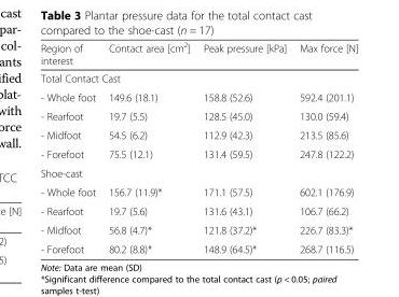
<table><thead><tr><td>Region of interest</td><td>Contact area [cm<sup>2</sup>]</td><td>Peak pressure [kPa]</td><td>Max force [N]</td></tr></thead><tbody><tr><td colspan="4">Total Contact Cast</td></tr><tr><td>- Whole foot</td><td>149.6 (18.1)</td><td>158.8 (52.6)</td><td>592.4 (201.1)</td></tr><tr><td>- Rearfoot</td><td>19.7 (5.5)</td><td>128.5 (45.0)</td><td>130.0 (59.4)</td></tr><tr><td>- Midfoot</td><td>54.5 (6.2)</td><td>112.9 (42.3)</td><td>213.5 (85.6)</td></tr><tr><td>- Forefoot</td><td>75.5 (12.1)</td><td>131.4 (59.5)</td><td>247.8 (122.2)</td></tr><tr><td colspan="4">Shoe-cast</td></tr><tr><td>- Whole foot</td><td>156.7 (11.9)*</td><td>171.1 (57.5)</td><td>602.1 (176.9)</td></tr><tr><td>- Rearfoot</td><td>19.7 (5.6)</td><td>131.6 (43.1)</td><td>106.7 (66.2)</td></tr><tr><td>- Midfoot</td><td>56.8 (4.7)*</td><td>121.8 (37.2)*</td><td>226.7 (83.3)*</td></tr><tr><td>- Forefoot</td><td>80.2 (8.8)*</td><td>148.9 (64.5)*</td><td>268.7 (116.5)</td></tr></tbody></table>